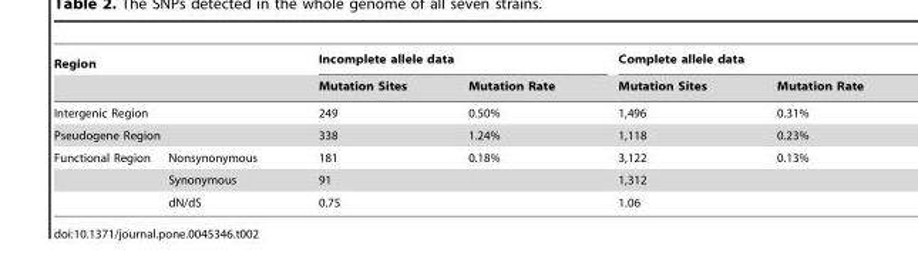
<table><thead><tr><td colspan="2">Region</td><td colspan="2">Incomplete allele data</td><td colspan="2">Complete allele data</td></tr><tr><td></td><td></td><td>Mutation Sites</td><td>Mutation Rate</td><td>Mutation Sites</td><td>Mutation Rate</td></tr></thead><tbody><tr><td colspan="2">Intergenic Region</td><td>249</td><td>0.50%</td><td>1,496</td><td>0.31%</td></tr><tr><td colspan="2">Pseudogene Region</td><td>338</td><td>1.24%</td><td>1,118</td><td>0.23%</td></tr><tr><td rowspan="3">Functional Region</td><td>Nonsynonymous</td><td>181</td><td>0.18%</td><td>3,122</td><td>0.13%</td></tr><tr><td>Synonymous</td><td>91</td><td></td><td>1,312</td><td></td></tr><tr><td>dN/dS</td><td>0.75</td><td></td><td>1.06</td><td></td></tr></tbody></table>